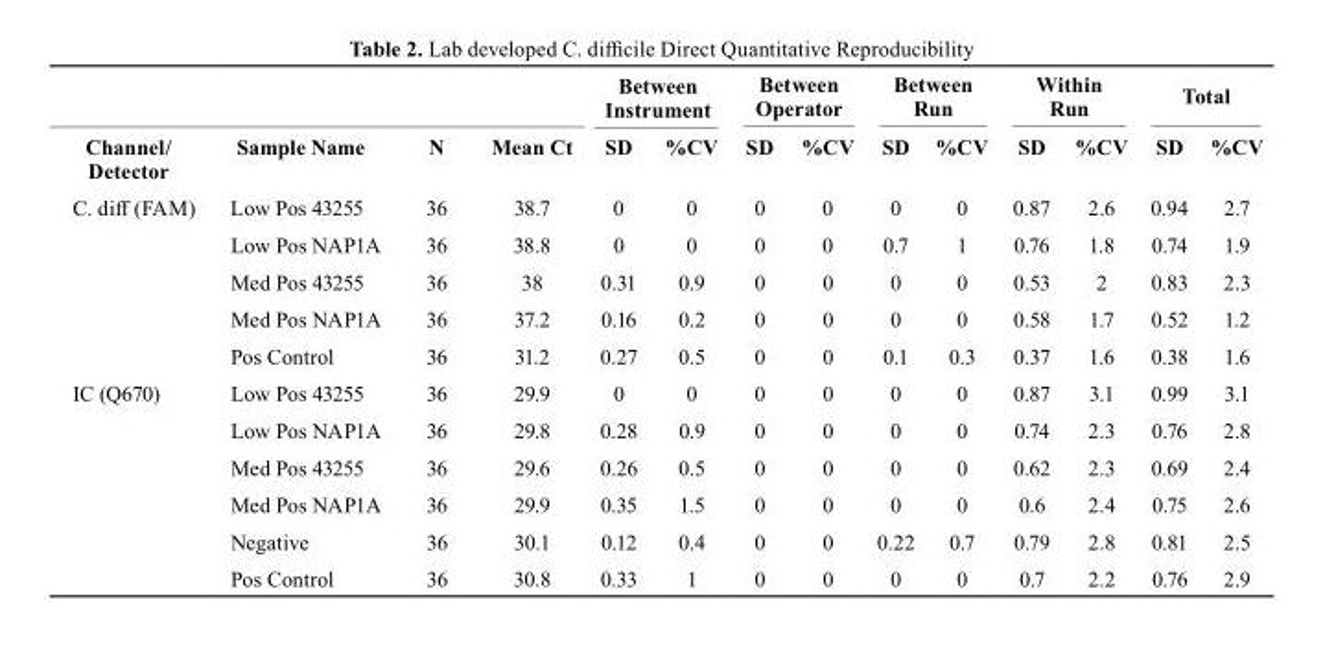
<table><thead><tr><td rowspan="2">channel/ Detector</td><td rowspan="2">sample Name</td><td rowspan="2">N</td><td rowspan="2">Mean ct</td><td colspan="2">between Instrument</td><td colspan="2">between Operator</td><td colspan="2">between run</td><td colspan="2">Within run</td><td colspan="2">total</td></tr><tr><td>sD</td><td>%CV</td><td>sD</td><td>%CV</td><td>sD</td><td>%CV</td><td>sD</td><td>%CV</td><td>sD</td><td>%CV</td></tr></thead><tbody><tr><td rowspan="5">C. diff (FAM)</td><td>Low Pos 43255</td><td>36</td><td>38.7</td><td>0</td><td>0</td><td>0</td><td>0</td><td>0</td><td>0</td><td>0.87</td><td>2.6</td><td>0.94</td><td>2.7</td></tr><tr><td>Low Pos NAP1A</td><td>36</td><td>38.8</td><td>0</td><td>0</td><td>0</td><td>0</td><td>0.7</td><td>1</td><td>0.76</td><td>1.8</td><td>0.74</td><td>1.9</td></tr><tr><td>Med Pos 43255</td><td>36</td><td>38</td><td>0.31</td><td>0.9</td><td>0</td><td>0</td><td>0</td><td>0</td><td>0.53</td><td>2</td><td>0.83</td><td>2.3</td></tr><tr><td>Med Pos NAP1A</td><td>36</td><td>37.2</td><td>0.16</td><td>0.2</td><td>0</td><td>0</td><td>0</td><td>0</td><td>0.58</td><td>1.7</td><td>0.52</td><td>1.2</td></tr><tr><td>Pos Control</td><td>36</td><td>31.2</td><td>0.27</td><td>0.5</td><td>0</td><td>0</td><td>0.1</td><td>0.3</td><td>0.37</td><td>1.6</td><td>0.38</td><td>1.6</td></tr><tr><td rowspan="6">IC (Q670)</td><td>Low Pos 43255</td><td>36</td><td>29.9</td><td>0</td><td>0</td><td>0</td><td>0</td><td>0</td><td>0</td><td>0.87</td><td>3.1</td><td>0.99</td><td>3.1</td></tr><tr><td>Low Pos NAP1A</td><td>36</td><td>29.8</td><td>0.28</td><td>0.9</td><td>0</td><td>0</td><td>0</td><td>0</td><td>0.74</td><td>2.3</td><td>0.76</td><td>2.8</td></tr><tr><td>Med Pos 43255</td><td>36</td><td>29.6</td><td>0.26</td><td>0.5</td><td>0</td><td>0</td><td>0</td><td>0</td><td>0.62</td><td>2.3</td><td>0.69</td><td>2.4</td></tr><tr><td>Med Pos NAP1A</td><td>36</td><td>29.9</td><td>0.35</td><td>1.5</td><td>0</td><td>0</td><td>0</td><td>0</td><td>0.6</td><td>2.4</td><td>0.75</td><td>2.6</td></tr><tr><td>Negative</td><td>36</td><td>30.1</td><td>0.12</td><td>0.4</td><td>0</td><td>0</td><td>0.22</td><td>0.7</td><td>0.79</td><td>2.8</td><td>0.81</td><td>2.5</td></tr><tr><td>Pos Control</td><td>36</td><td>30.8</td><td>0.33</td><td>1</td><td>0</td><td>0</td><td>0</td><td>0</td><td>0.7</td><td>2.2</td><td>0.76</td><td>2.9</td></tr></tbody></table>